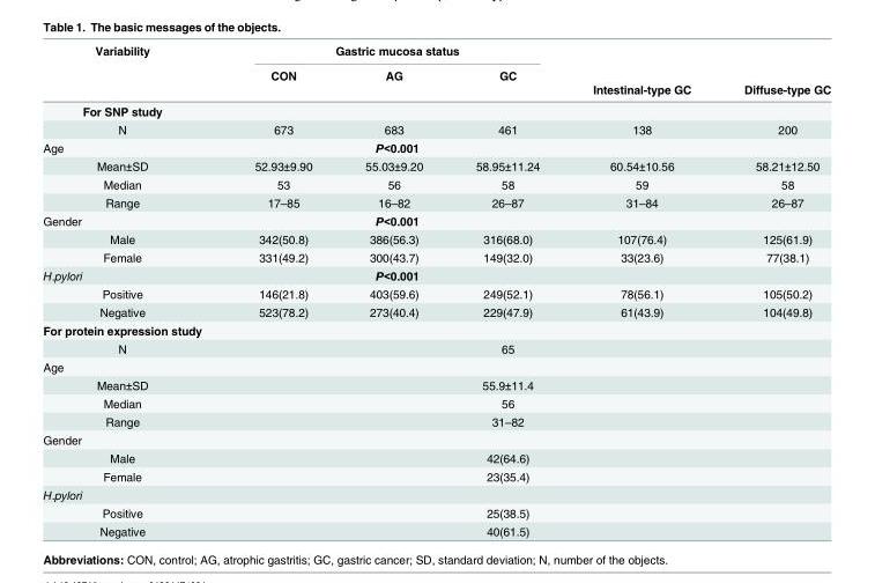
<table><thead><tr><td rowspan="3">Variability</td><td colspan="3">Gastric mucosa status</td><td rowspan="3">Intestinal-type GC</td><td rowspan="3">Diffuse-type GC</td></tr><tr><td rowspan="2">CON</td><td rowspan="2">AG</td><td rowspan="2">GC</td></tr><tr></tr></thead><tbody><tr><td colspan="6">For SNP study</td></tr><tr><td>N</td><td>673</td><td>683</td><td>461</td><td>138</td><td>200</td></tr><tr><td>Age</td><td colspan="3">P&lt;0.001</td><td></td><td></td></tr><tr><td>Mean±SD</td><td>52.93±9.90</td><td>55.03±9.20</td><td>58.95±11.24</td><td>60.54±10.56</td><td>58.21±12.50</td></tr><tr><td>Median</td><td>53</td><td>56</td><td>58</td><td>59</td><td>58</td></tr><tr><td>Range</td><td>17–85</td><td>16–82</td><td>26–87</td><td>31–84</td><td>26–87</td></tr><tr><td>Gender</td><td colspan="3">P&lt;0.001</td><td></td><td></td></tr><tr><td>Male</td><td>342(50.8)</td><td>386(56.3)</td><td>316(68.0)</td><td>107(76.4)</td><td>125(61.9)</td></tr><tr><td>Female</td><td>331(49.2)</td><td>300(43.7)</td><td>149(32.0)</td><td>33(23.6)</td><td>77(38.1)</td></tr><tr><td>H.pylori</td><td colspan="3">P&lt;0.001</td><td></td><td></td></tr><tr><td>Positive</td><td>146(21.8)</td><td>403(59.6)</td><td>249(52.1)</td><td>78(56.1)</td><td>105(50.2)</td></tr><tr><td>Negative</td><td>523(78.2)</td><td>273(40.4)</td><td>229(47.9)</td><td>61(43.9)</td><td>104(49.8)</td></tr><tr><td colspan="6">For protein expression study</td></tr><tr><td>N</td><td></td><td></td><td>65</td><td></td><td></td></tr><tr><td colspan="6">Age</td></tr><tr><td>Mean±SD</td><td></td><td></td><td>55.9±11.4</td><td></td><td></td></tr><tr><td>Median</td><td></td><td></td><td>56</td><td></td><td></td></tr><tr><td>Range</td><td></td><td></td><td>31–82</td><td></td><td></td></tr><tr><td colspan="6">Gender</td></tr><tr><td>Male</td><td></td><td></td><td>42(64.6)</td><td></td><td></td></tr><tr><td>Female</td><td></td><td></td><td>23(35.4)</td><td></td><td></td></tr><tr><td colspan="6">H.pylori</td></tr><tr><td>Positive</td><td></td><td></td><td>25(38.5)</td><td></td><td></td></tr><tr><td>Negative</td><td></td><td></td><td>40(61.5)</td><td></td><td></td></tr></tbody></table>